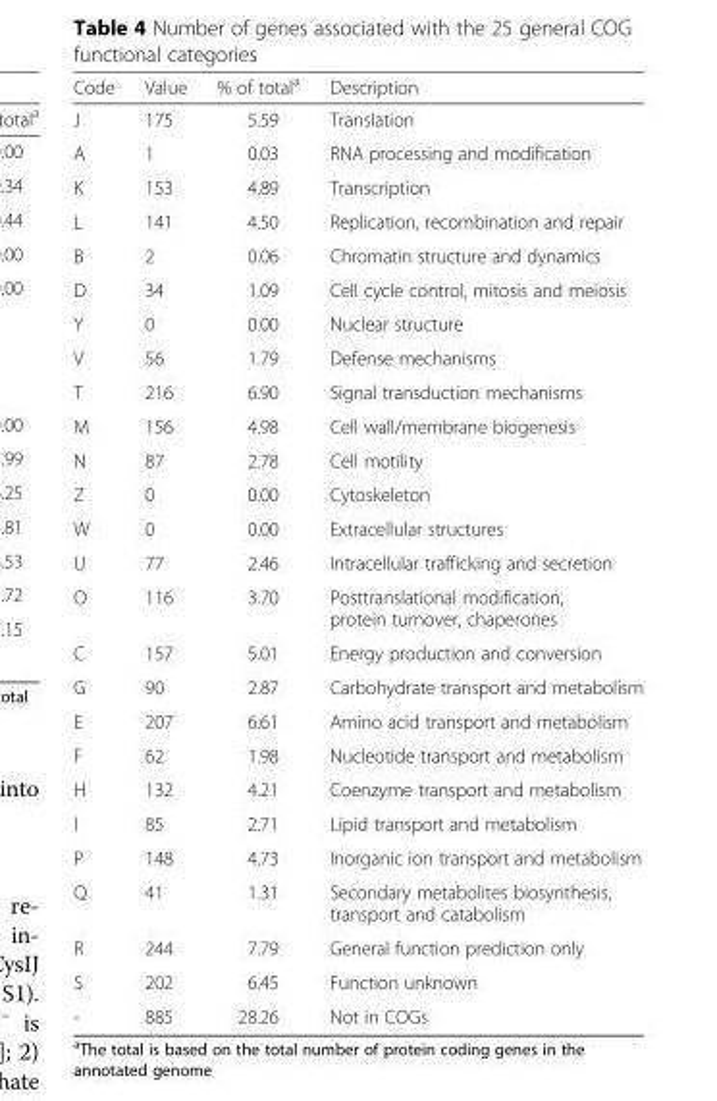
<table><thead><tr><td>Code</td><td>Value</td><td>% of total<sup>a</sup></td><td>Description</td></tr></thead><tbody><tr><td>J</td><td>175</td><td>5.59</td><td>Translation</td></tr><tr><td>A</td><td>1</td><td>0.03</td><td>RNA processing and modification</td></tr><tr><td>K</td><td>153</td><td>4.89</td><td>Transcription</td></tr><tr><td>L</td><td>141</td><td>4.50</td><td>Replication, recombination and repair</td></tr><tr><td>B</td><td>2</td><td>0.06</td><td>Chromatin structure and dynamics</td></tr><tr><td>D</td><td>34</td><td>1.09</td><td>Cell cycle control, mitosis and meiosis</td></tr><tr><td>Y</td><td>0</td><td>0.00</td><td>Nuclear structure</td></tr><tr><td>V</td><td>56</td><td>1.79</td><td>Defense mechanisms</td></tr><tr><td>T</td><td>216</td><td>6.90</td><td>Signal transduction mechanisms</td></tr><tr><td>M</td><td>156</td><td>4.98</td><td>Cell wall/membrane biogenesis</td></tr><tr><td>N</td><td>87</td><td>2.78</td><td>Cell motility</td></tr><tr><td>Z</td><td>0</td><td>0.00</td><td>Cytoskeleton</td></tr><tr><td>W</td><td>0</td><td>0.00</td><td>Extracellular structures</td></tr><tr><td>U</td><td>77</td><td>2.46</td><td>Intracellular trafficking and secretion</td></tr><tr><td>O</td><td>116</td><td>3.70</td><td>Posttranslational modification, protein turnover, chaperones</td></tr><tr><td>C</td><td>157</td><td>5.01</td><td>Energy production and conversion</td></tr><tr><td>G</td><td>90</td><td>2.87</td><td>Carbohydrate transport and metabolism</td></tr><tr><td>E</td><td>207</td><td>6.61</td><td>Amino acid transport and metabolism</td></tr><tr><td>F</td><td>62</td><td>1.98</td><td>Nucleotide transport and metabolism</td></tr><tr><td>H</td><td>132</td><td>4.21</td><td>Coenzyme transport and metabolism</td></tr><tr><td>I</td><td>85</td><td>2.71</td><td>Lipid transport and metabolism</td></tr><tr><td>P</td><td>148</td><td>4.73</td><td>Inorganic ion transport and metabolism</td></tr><tr><td>Q</td><td>41</td><td>1.31</td><td>Secondary metabolites biosynthesis, transport and catabolism</td></tr><tr><td>R</td><td>244</td><td>7.79</td><td>General function prediction only</td></tr><tr><td>S</td><td>202</td><td>6.45</td><td>Function unknown</td></tr><tr><td>-</td><td>885</td><td>28.26</td><td>Not in COGs</td></tr></tbody></table>